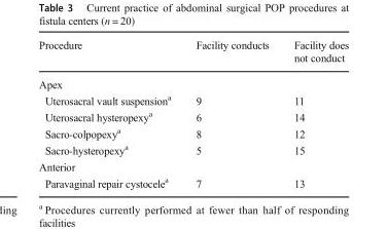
<table><thead><tr><td>Procedure</td><td>Facility conducts</td><td>Facility does not conduct</td></tr></thead><tbody><tr><td colspan="3">Apex</td></tr><tr><td>Uterosacral vault suspension<sup>a</sup></td><td>9</td><td>11</td></tr><tr><td>Uterosacral hysteropexy<sup>a</sup></td><td>6</td><td>14</td></tr><tr><td>Sacro-colpopexy<sup>a</sup></td><td>8</td><td>12</td></tr><tr><td>Sacro-hysteropexy<sup>a</sup></td><td>5</td><td>15</td></tr><tr><td colspan="3">Anterior</td></tr><tr><td>Paravaginal repair cystocele<sup>a</sup></td><td>7</td><td>13</td></tr></tbody></table>